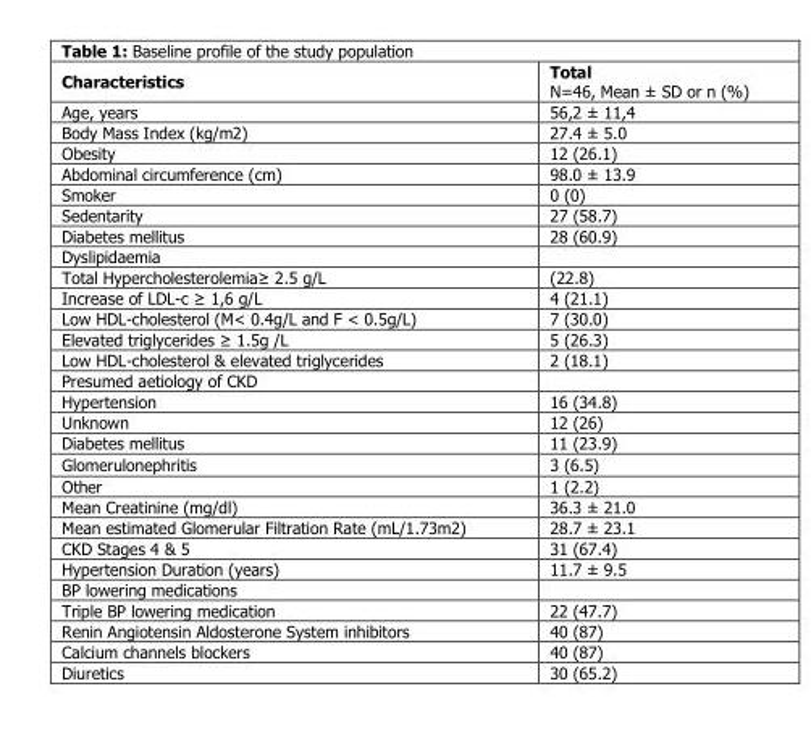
<table><thead><tr><td>Characteristics</td><td>Total N=46, Mean ± SD or n (%)</td></tr></thead><tbody><tr><td>Age, years</td><td>56,2 ± 11,4</td></tr><tr><td>Body Mass Index (kg/m2)</td><td>27.4 ± 5.0</td></tr><tr><td>Obesity</td><td>12 (26.1)</td></tr><tr><td>Abdominal circumference (cm)</td><td>98.0 ± 13.9</td></tr><tr><td>Smoker</td><td>0 (0)</td></tr><tr><td>Sedentarity</td><td>27 (58.7)</td></tr><tr><td>Diabetes mellitus</td><td>28 (60.9)</td></tr><tr><td colspan="2">Dyslipidaemia</td></tr><tr><td>Total Hypercholesterolemia≥ 2.5 g/L</td><td>(22.8)</td></tr><tr><td>Increase of LDL-c ≥ 1,6 g/L</td><td>4 (21.1)</td></tr><tr><td>Low HDL-cholesterol (M&lt; 0.4g/L and F &lt; 0.5g/L)</td><td>7 (30.0)</td></tr><tr><td>Elevated triglycerides ≥ 1.5g /L</td><td>5 (26.3)</td></tr><tr><td>Low HDL-cholesterol &amp; elevated triglycerides</td><td>2 (18.1)</td></tr><tr><td colspan="2">Presumed aetiology of CKD</td></tr><tr><td>Hypertension</td><td>16 (34.8)</td></tr><tr><td>Unknown</td><td>12 (26)</td></tr><tr><td>Diabetes mellitus</td><td>11 (23.9)</td></tr><tr><td>Glomerulonephritis</td><td>3 (6.5)</td></tr><tr><td>Other</td><td>1 (2.2)</td></tr><tr><td>Mean Creatinine (mg/dl)</td><td>36.3 ± 21.0</td></tr><tr><td>Mean estimated Glomerular Filtration Rate (mL/1.73m2)</td><td>28.7 ± 23.1</td></tr><tr><td>CKD Stages 4 &amp; 5</td><td>31 (67.4)</td></tr><tr><td>Hypertension Duration (years)</td><td>11.7 ± 9.5</td></tr><tr><td colspan="2">BP lowering medications</td></tr><tr><td>Triple BP lowering medication</td><td>22 (47.7)</td></tr><tr><td>Renin Angiotensin Aldosterone System inhibitors</td><td>40 (87)</td></tr><tr><td>Calcium channels blockers</td><td>40 (87)</td></tr><tr><td>Diuretics</td><td>30 (65.2)</td></tr></tbody></table>